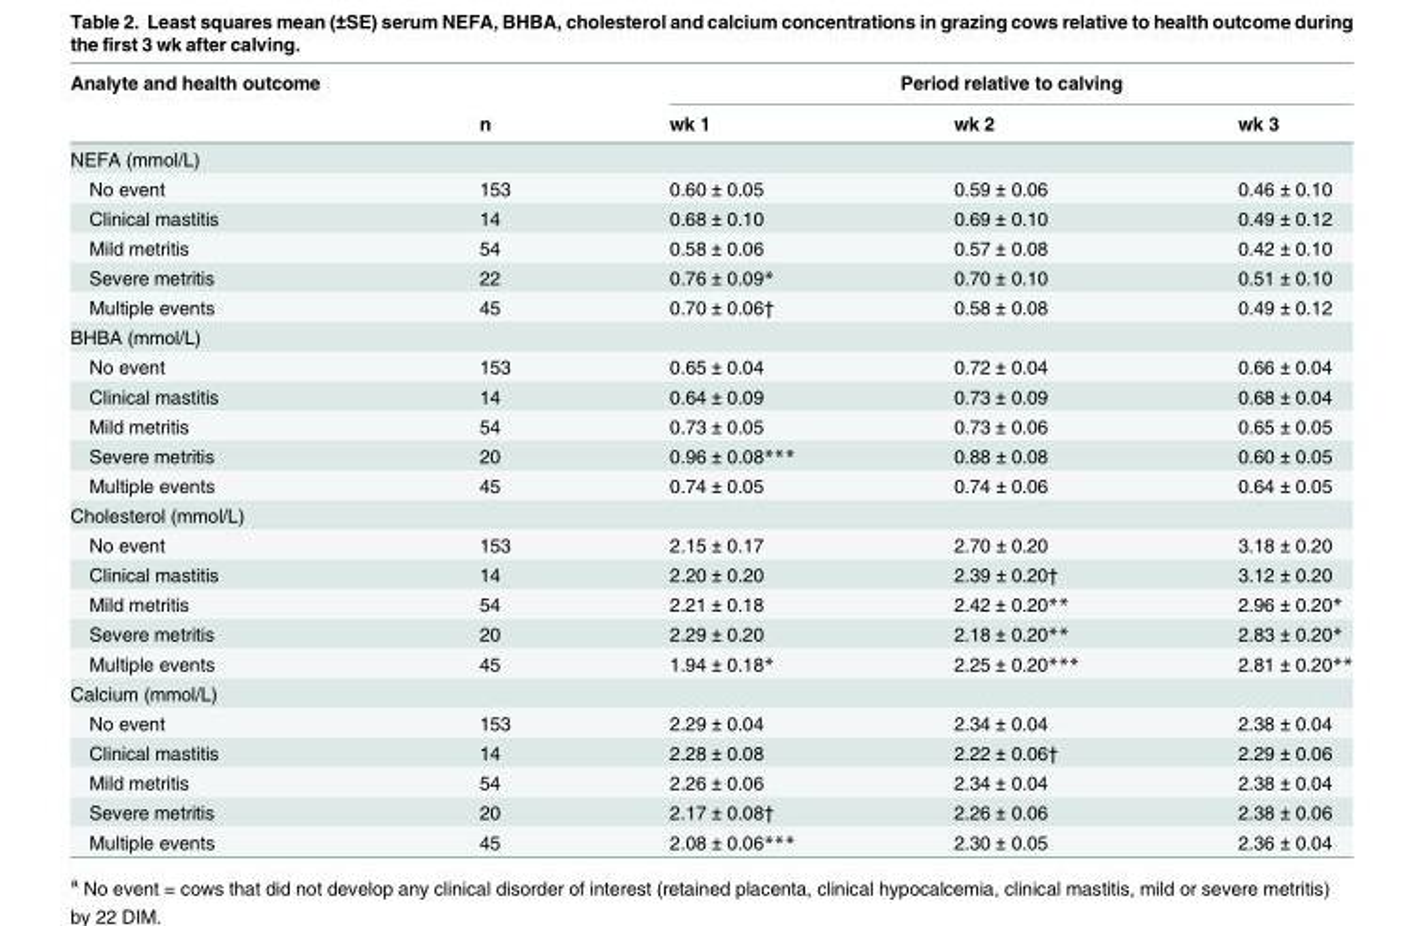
<table><thead><tr><td rowspan="2">Analyte and health outcome</td><td rowspan="2">n</td><td colspan="3">Period relative to calving</td></tr><tr><td>wk 1</td><td>wk 2</td><td>wk 3</td></tr></thead><tbody><tr><td colspan="5">NEFA (mmol/L)</td></tr><tr><td>No event</td><td>153</td><td>0.60 ± 0.05</td><td>0.59 ± 0.06</td><td>0.46 ± 0.10</td></tr><tr><td>Clinical mastitis</td><td>14</td><td>0.68 ± 0.10</td><td>0.69 ± 0.10</td><td>0.49 ± 0.12</td></tr><tr><td>Mild metritis</td><td>54</td><td>0.58 ± 0.06</td><td>0.57 ± 0.08</td><td>0.42 ± 0.10</td></tr><tr><td>Severe metritis</td><td>22</td><td>0.76 ± 0.09*</td><td>0.70 ± 0.10</td><td>0.51 ± 0.10</td></tr><tr><td>Multiple events</td><td>45</td><td>0.70 ± 0.06†</td><td>0.58 ± 0.08</td><td>0.49 ± 0.12</td></tr><tr><td colspan="5">BHBA (mmol/L)</td></tr><tr><td>No event</td><td>153</td><td>0.65 ± 0.04</td><td>0.72 ± 0.04</td><td>0.66 ± 0.04</td></tr><tr><td>Clinical mastitis</td><td>14</td><td>0.64 ± 0.09</td><td>0.73 ± 0.09</td><td>0.68 ± 0.04</td></tr><tr><td>Mild metritis</td><td>54</td><td>0.73 ± 0.05</td><td>0.73 ± 0.06</td><td>0.65 ± 0.05</td></tr><tr><td>Severe metritis</td><td>20</td><td>0.96 ± 0.08***</td><td>0.88 ± 0.08</td><td>0.60 ± 0.05</td></tr><tr><td>Multiple events</td><td>45</td><td>0.74 ± 0.05</td><td>0.74 ± 0.06</td><td>0.64 ± 0.05</td></tr><tr><td colspan="5">Cholesterol (mmol/L)</td></tr><tr><td>No event</td><td>153</td><td>2.15 ± 0.17</td><td>2.70 ± 0.20</td><td>3.18 ± 0.20</td></tr><tr><td>Clinical mastitis</td><td>14</td><td>2.20 ± 0.20</td><td>2.39 ± 0.20†</td><td>3.12 ± 0.20</td></tr><tr><td>Mild metritis</td><td>54</td><td>2.21 ± 0.18</td><td>2.42 ± 0.20**</td><td>2.96 ± 0.20*</td></tr><tr><td>Severe metritis</td><td>20</td><td>2.29 ± 0.20</td><td>2.18 ± 0.20**</td><td>2.83 ± 0.20*</td></tr><tr><td>Multiple events</td><td>45</td><td>1.94 ± 0.18*</td><td>2.25 ± 0.20***</td><td>2.81 ± 0.20**</td></tr><tr><td colspan="5">Calcium (mmol/L)</td></tr><tr><td>No event</td><td>153</td><td>2.29 ± 0.04</td><td>2.34 ± 0.04</td><td>2.38 ± 0.04</td></tr><tr><td>Clinical mastitis</td><td>14</td><td>2.28 ± 0.08</td><td>2.22 ± 0.06†</td><td>2.29 ± 0.06</td></tr><tr><td>Mild metritis</td><td>54</td><td>2.26 ± 0.06</td><td>2.34 ± 0.04</td><td>2.38 ± 0.04</td></tr><tr><td>Severe metritis</td><td>20</td><td>2.17 ± 0.08†</td><td>2.26 ± 0.06</td><td>2.38 ± 0.06</td></tr><tr><td>Multiple events</td><td>45</td><td>2.08 ± 0.06***</td><td>2.30 ± 0.05</td><td>2.36 ± 0.04</td></tr></tbody></table>